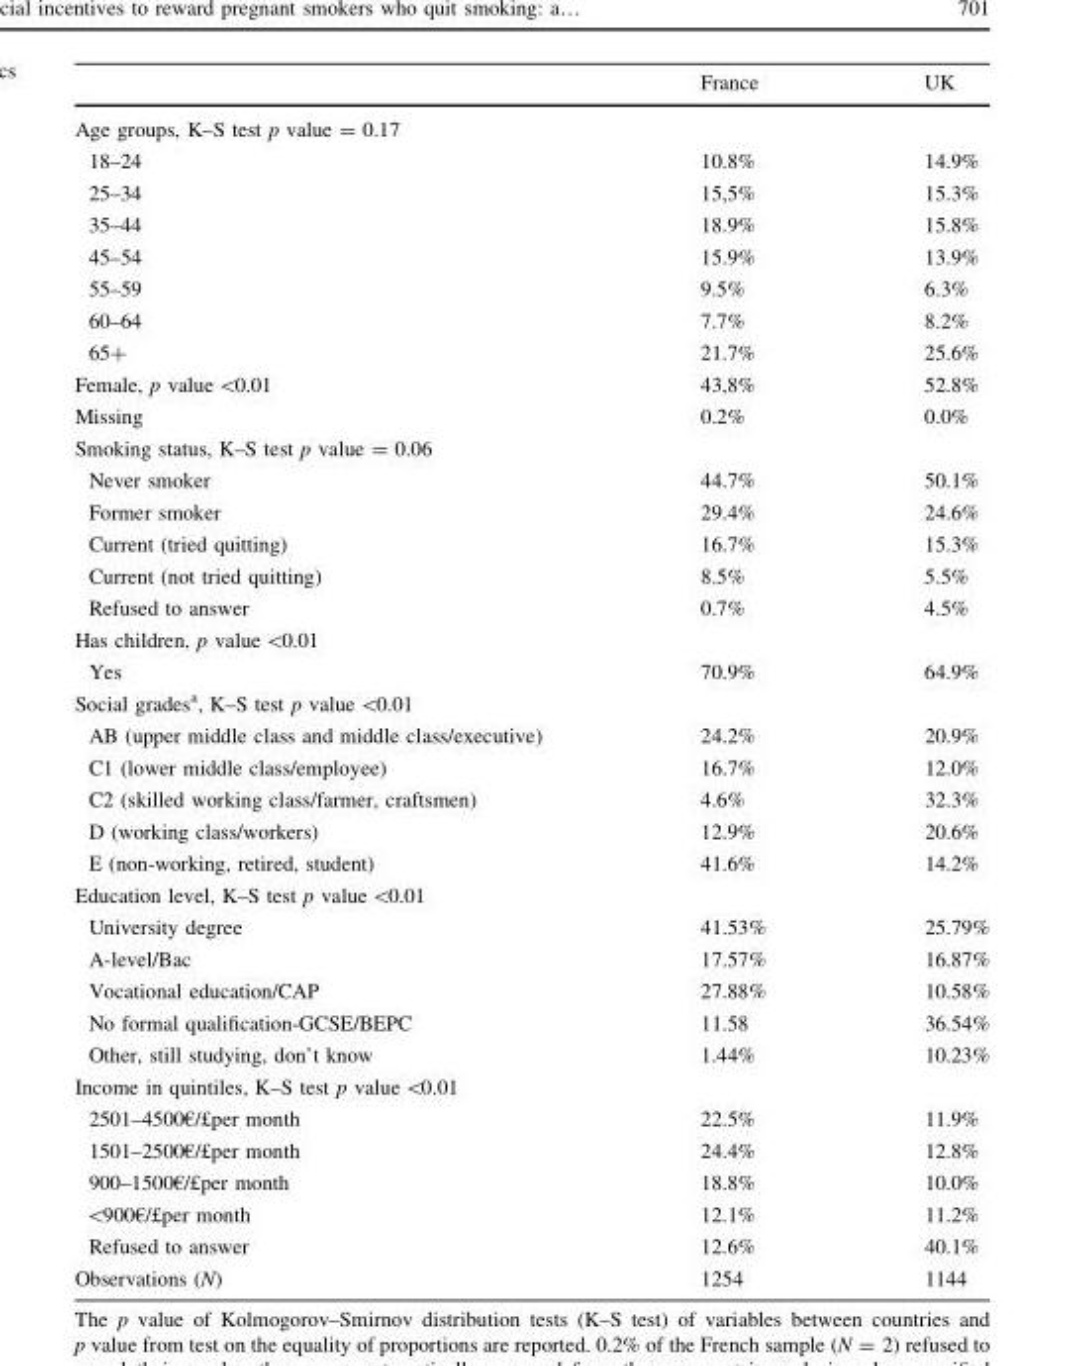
<table><thead><tr><td></td><td>France</td><td>UK</td></tr></thead><tbody><tr><td colspan="3">Age groups, K–S test p value = 0.17</td></tr><tr><td>18–24</td><td>10.8%</td><td>14.9%</td></tr><tr><td>25–34</td><td>15,5%</td><td>15.3%</td></tr><tr><td>35–44</td><td>18.9%</td><td>15.8%</td></tr><tr><td>45–54</td><td>15.9%</td><td>13.9%</td></tr><tr><td>55–59</td><td>9.5%</td><td>6.3%</td></tr><tr><td>60–64</td><td>7.7%</td><td>8.2%</td></tr><tr><td>65+</td><td>21.7%</td><td>25.6%</td></tr><tr><td>Female, p value &lt;0.01</td><td>43,8%</td><td>52.8%</td></tr><tr><td>Missing</td><td>0.2%</td><td>0.0%</td></tr><tr><td colspan="3">Smoking status, K–S test p value = 0.06</td></tr><tr><td>Never smoker</td><td>44.7%</td><td>50.1%</td></tr><tr><td>Former smoker</td><td>29.4%</td><td>24.6%</td></tr><tr><td>Current (tried quitting)</td><td>16.7%</td><td>15.3%</td></tr><tr><td>Current (not tried quitting)</td><td>8.5%</td><td>5.5%</td></tr><tr><td>Refused to answer</td><td>0.7%</td><td>4.5%</td></tr><tr><td colspan="3">Has children, p value &lt;0.01</td></tr><tr><td>Yes</td><td>70.9%</td><td>64.9%</td></tr><tr><td colspan="3">Social grades<sup>a</sup>, K–S test p value &lt;0.01</td></tr><tr><td>AB (upper middle class and middle class/executive)</td><td>24.2%</td><td>20.9%</td></tr><tr><td>C1 (lower middle class/employee)</td><td>16.7%</td><td>12.0%</td></tr><tr><td>C2 (skilled working class/farmer, craftsmen)</td><td>4.6%</td><td>32.3%</td></tr><tr><td>D (working class/workers)</td><td>12.9%</td><td>20.6%</td></tr><tr><td>E (non-working, retired, student)</td><td>41.6%</td><td>14.2%</td></tr><tr><td colspan="3">Education level, K–S test p value &lt;0.01</td></tr><tr><td>University degree</td><td>41.53%</td><td>25.79%</td></tr><tr><td>A-level/Bac</td><td>17.57%</td><td>16.87%</td></tr><tr><td>Vocational education/CAP</td><td>27.88%</td><td>10.58%</td></tr><tr><td>No formal qualification-GCSE/BEPC</td><td>11.58</td><td>36.54%</td></tr><tr><td>Other, still studying, don’t know</td><td>1.44%</td><td>10.23%</td></tr><tr><td colspan="3">Income in quintiles, K–S test p value &lt;0.01</td></tr><tr><td>2501–4500€/£per month</td><td>22.5%</td><td>11.9%</td></tr><tr><td>1501–2500€/£per month</td><td>24.4%</td><td>12.8%</td></tr><tr><td>900–1500€/£per month</td><td>18.8%</td><td>10.0%</td></tr><tr><td>&lt;900€/£per month</td><td>12.1%</td><td>11.2%</td></tr><tr><td>Refused to answer</td><td>12.6%</td><td>40.1%</td></tr><tr><td>Observations (N)</td><td>1254</td><td>1144</td></tr></tbody></table>